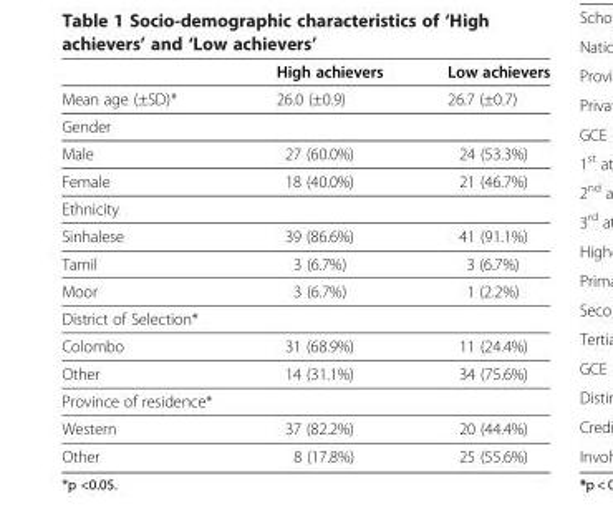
<table><thead><tr><td></td><td>High achievers</td><td>Low achievers</td></tr></thead><tbody><tr><td>Mean age (±SD)*</td><td>26.0 (±0.9)</td><td>26.7 (±0.7)</td></tr><tr><td colspan="3">Gender</td></tr><tr><td>Male</td><td>27 (60.0%)</td><td>24 (53.3%)</td></tr><tr><td>Female</td><td>18 (40.0%)</td><td>21 (46.7%)</td></tr><tr><td colspan="3">Ethnicity</td></tr><tr><td>Sinhalese</td><td>39 (86.6%)</td><td>41 (91.1%)</td></tr><tr><td>Tamil</td><td>3 (6.7%)</td><td>3 (6.7%)</td></tr><tr><td>Moor</td><td>3 (6.7%)</td><td>1 (2.2%)</td></tr><tr><td colspan="3">District of Selection*</td></tr><tr><td>Colombo</td><td>31 (68.9%)</td><td>11 (24.4%)</td></tr><tr><td>Other</td><td>14 (31.1%)</td><td>34 (75.6%)</td></tr><tr><td colspan="3">Province of residence*</td></tr><tr><td>Western</td><td>37 (82.2%)</td><td>20 (44.4%)</td></tr><tr><td>Other</td><td>8 (17.8%)</td><td>25 (55.6%)</td></tr></tbody></table>